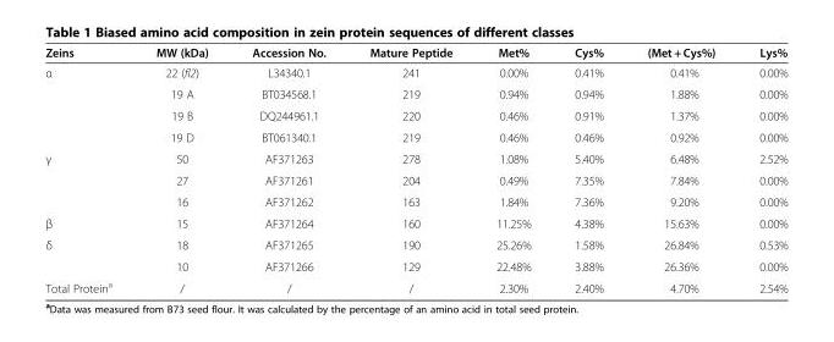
<table><thead><tr><td>Zeins</td><td>MW (kDa)</td><td>Accession No.</td><td>Mature Peptide</td><td>Met%</td><td>Cys%</td><td>(Met + Cys%)</td><td>Lys%</td></tr></thead><tbody><tr><td rowspan="4">α</td><td>22 (fl2)</td><td>L34340.1</td><td>241</td><td>0.00%</td><td>0.41%</td><td>0.41%</td><td>0.00%</td></tr><tr><td>19 A</td><td>BT034568.1</td><td>219</td><td>0.94%</td><td>0.94%</td><td>1.88%</td><td>0.00%</td></tr><tr><td>19 B</td><td>DQ244961.1</td><td>220</td><td>0.46%</td><td>0.91%</td><td>1.37%</td><td>0.00%</td></tr><tr><td>19 D</td><td>BT061340.1</td><td>219</td><td>0.46%</td><td>0.46%</td><td>0.92%</td><td>0.00%</td></tr><tr><td rowspan="3">γ</td><td>50</td><td>AF371263</td><td>278</td><td>1.08%</td><td>5.40%</td><td>6.48%</td><td>2.52%</td></tr><tr><td>27</td><td>AF371261</td><td>204</td><td>0.49%</td><td>7.35%</td><td>7.84%</td><td>0.00%</td></tr><tr><td>16</td><td>AF371262</td><td>163</td><td>1.84%</td><td>7.36%</td><td>9.20%</td><td>0.00%</td></tr><tr><td>β</td><td>15</td><td>AF371264</td><td>160</td><td>11.25%</td><td>4.38%</td><td>15.63%</td><td>0.00%</td></tr><tr><td rowspan="2">δ</td><td>18</td><td>AF371265</td><td>190</td><td>25.26%</td><td>1.58%</td><td>26.84%</td><td>0.53%</td></tr><tr><td>10</td><td>AF371266</td><td>129</td><td>22.48%</td><td>3.88%</td><td>26.36%</td><td>0.00%</td></tr><tr><td>Total Protein<sup>a</sup></td><td>/</td><td>/</td><td>/</td><td>2.30%</td><td>2.40%</td><td>4.70%</td><td>2.54%</td></tr></tbody></table>